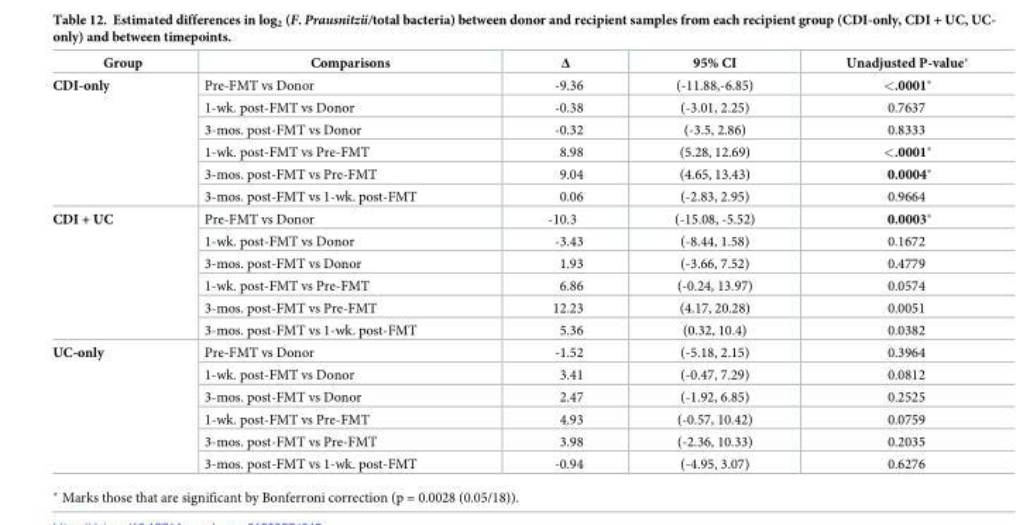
<table><thead><tr><td>Group</td><td>Comparisons</td><td>Δ</td><td>95% CI</td><td>Unadjusted P-value*</td></tr></thead><tbody><tr><td rowspan="6">CDI-only</td><td>Pre-FMT vs Donor</td><td>-9.36</td><td>(-11.88,-6.85)</td><td>&lt;.0001*</td></tr><tr><td>1-wk. post-FMT vs Donor</td><td>-0.38</td><td>(-3.01, 2.25)</td><td>0.7637</td></tr><tr><td>3-mos. post-FMT vs Donor</td><td>-0.32</td><td>(-3.5, 2.86)</td><td>0.8333</td></tr><tr><td>1-wk. post-FMT vs Pre-FMT</td><td>8.98</td><td>(5.28, 12.69)</td><td>&lt;.0001*</td></tr><tr><td>3-mos. post-FMT vs Pre-FMT</td><td>9.04</td><td>(4.65, 13.43)</td><td>0.0004*</td></tr><tr><td>3-mos. post-FMT vs 1-wk. post-FMT</td><td>0.06</td><td>(-2.83, 2.95)</td><td>0.9664</td></tr><tr><td rowspan="6">CDI + UC</td><td>Pre-FMT vs Donor</td><td>-10.3</td><td>(-15.08, -5.52)</td><td>0.0003*</td></tr><tr><td>1-wk. post-FMT vs Donor</td><td>-3.43</td><td>(-8.44, 1.58)</td><td>0.1672</td></tr><tr><td>3-mos. post-FMT vs Donor</td><td>1.93</td><td>(-3.66, 7.52)</td><td>0.4779</td></tr><tr><td>1-wk. post-FMT vs Pre-FMT</td><td>6.86</td><td>(-0.24, 13.97)</td><td>0.0574</td></tr><tr><td>3-mos. post-FMT vs Pre-FMT</td><td>12.23</td><td>(4.17, 20.28)</td><td>0.0051</td></tr><tr><td>3-mos. post-FMT vs 1-wk. post-FMT</td><td>5.36</td><td>(0.32, 10.4)</td><td>0.0382</td></tr><tr><td rowspan="6">UC-only</td><td>Pre-FMT vs Donor</td><td>-1.52</td><td>(-5.18, 2.15)</td><td>0.3964</td></tr><tr><td>1-wk. post-FMT vs Donor</td><td>3.41</td><td>(-0.47, 7.29)</td><td>0.0812</td></tr><tr><td>3-mos. post-FMT vs Donor</td><td>2.47</td><td>(-1.92, 6.85)</td><td>0.2525</td></tr><tr><td>1-wk. post-FMT vs Pre-FMT</td><td>4.93</td><td>(-0.57, 10.42)</td><td>0.0759</td></tr><tr><td>3-mos. post-FMT vs Pre-FMT</td><td>3.98</td><td>(-2.36, 10.33)</td><td>0.2035</td></tr><tr><td>3-mos. post-FMT vs 1-wk. post-FMT</td><td>-0.94</td><td>(-4.95, 3.07)</td><td>0.6276</td></tr></tbody></table>